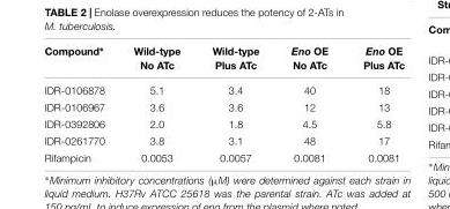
<table><thead><tr><td>Compound∗</td><td>Wild-type No ATc</td><td>Wild-type Plus ATc</td><td>Eno OE No ATc</td><td>Eno OE Plus ATc</td></tr></thead><tbody><tr><td>IDR-0106878</td><td>5.1</td><td>3.4</td><td>40</td><td>18</td></tr><tr><td>IDR-0106967</td><td>3.6</td><td>3.6</td><td>12</td><td>13</td></tr><tr><td>IDR-0392806</td><td>2.0</td><td>1.8</td><td>4.5</td><td>5.8</td></tr><tr><td>IDR-0261770</td><td>3.8</td><td>3.1</td><td>48</td><td>17</td></tr><tr><td>Rifampicin</td><td>0.0053</td><td>0.0057</td><td>0.0081</td><td>0.0081</td></tr></tbody></table>